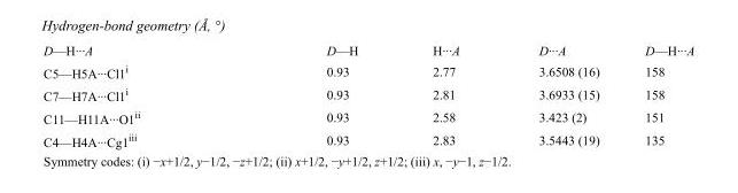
<table><tbody><tr><td>D—H···A</td><td>D—H</td><td>H···A</td><td>D···A</td><td>D—H···A</td></tr><tr><td>C5—H5A···Cl1<sup>i</sup></td><td>0.93</td><td>2.77</td><td>3.6508 (16)</td><td>158</td></tr><tr><td>C7—H7A···Cl1<sup>i</sup></td><td>0.93</td><td>2.81</td><td>3.6933 (15)</td><td>158</td></tr><tr><td>C11—H11A···O1<sup>ii</sup></td><td>0.93</td><td>2.58</td><td>3.423 (2)</td><td>151</td></tr><tr><td>C4—H4A···Cg1<sup>iii</sup></td><td>0.93</td><td>2.83</td><td>3.5443 (19)</td><td>135</td></tr></tbody></table>